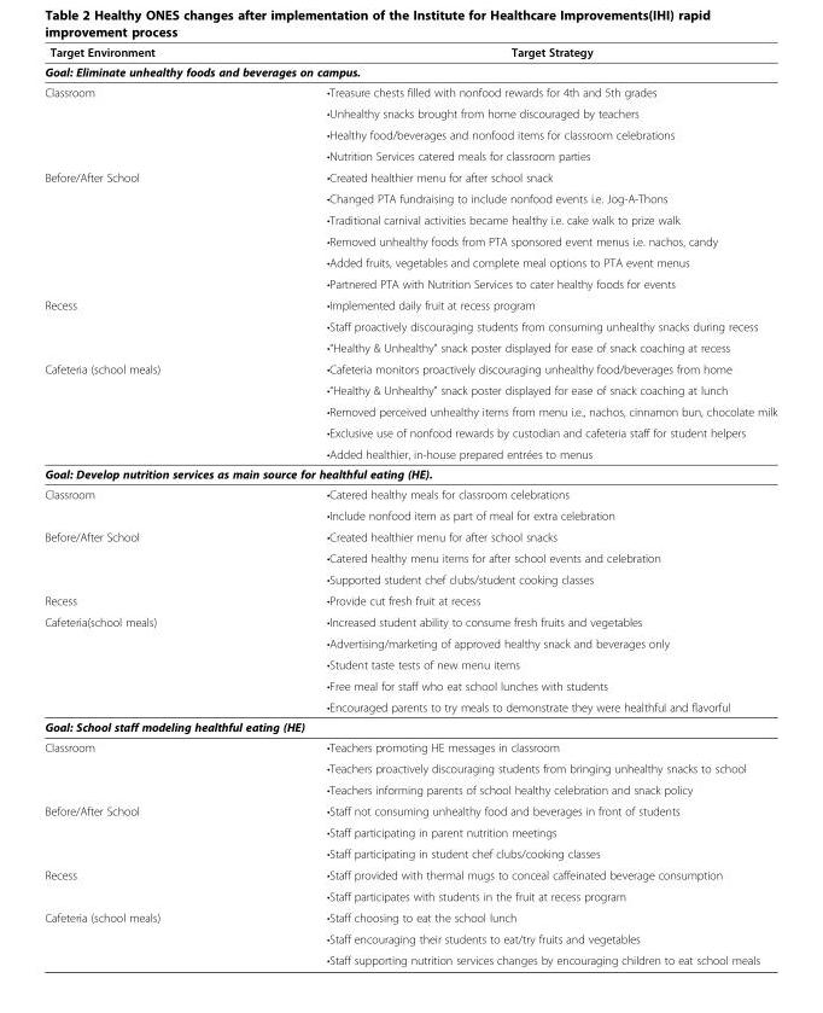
<table><thead><tr><td>Target Environment</td><td>Target Strategy</td></tr></thead><tbody><tr><td colspan="2">Goal: Eliminate unhealthy foods and beverages on campus.</td></tr><tr><td rowspan="4">Classroom</td><td>•Treasure chests filled with nonfood rewards for 4th and 5th grades</td></tr><tr><td>•Unhealthy snacks brought from home discouraged by teachers</td></tr><tr><td>•Healthy food/beverages and nonfood items for classroom celebrations</td></tr><tr><td>•Nutrition Services catered meals for classroom parties</td></tr><tr><td rowspan="6">Before/After School</td><td>•Created healthier menu for after school snack</td></tr><tr><td>•Changed PTA fundraising to include nonfood events i.e. Jog-A-Thons</td></tr><tr><td>•Traditional carnival activities became healthy i.e. cake walk to prize walk</td></tr><tr><td>•Removed unhealthy foods from PTA sponsored event menus i.e. nachos, candy</td></tr><tr><td>•Added fruits, vegetables and complete meal options to PTA event menus</td></tr><tr><td>•Partnered PTA with Nutrition Services to cater healthy foods for events</td></tr><tr><td rowspan="3">Recess</td><td>•Implemented daily fruit at recess program</td></tr><tr><td>•Staff proactively discouraging students from consuming unhealthy snacks during recess</td></tr><tr><td>•“Healthy &amp; Unhealthy” snack poster displayed for ease of snack coaching at recess</td></tr><tr><td rowspan="5">Cafeteria (school meals)</td><td>•Cafeteria monitors proactively discouraging unhealthy food/beverages from home</td></tr><tr><td>•“Healthy &amp; Unhealthy” snack poster displayed for ease of snack coaching at lunch</td></tr><tr><td>•Removed perceived unhealthy items from menu i.e., nachos, cinnamon bun, chocolate milk</td></tr><tr><td>•Exclusive use of nonfood rewards by custodian and cafeteria staff for student helpers</td></tr><tr><td>•Added healthier, in-house prepared entrées to menus</td></tr><tr><td colspan="2">Goal: Develop nutrition services as main source for healthful eating (HE).</td></tr><tr><td rowspan="2">Classroom</td><td>•Catered healthy meals for classroom celebrations</td></tr><tr><td>•Include nonfood item as part of meal for extra celebration</td></tr><tr><td rowspan="3">Before/After School</td><td>•Created healthier menu for after school snacks</td></tr><tr><td>•Catered healthy menu items for after school events and celebration</td></tr><tr><td>•Supported student chef clubs/student cooking classes</td></tr><tr><td>Recess</td><td>•Provide cut fresh fruit at recess</td></tr><tr><td rowspan="5">Cafeteria(school meals)</td><td>•Increased student ability to consume fresh fruits and vegetables</td></tr><tr><td>•Advertising/marketing of approved healthy snack and beverages only</td></tr><tr><td>•Student taste tests of new menu items</td></tr><tr><td>•Free meal for staff who eat school lunches with students</td></tr><tr><td>•Encouraged parents to try meals to demonstrate they were healthful and flavorful</td></tr><tr><td colspan="2">Goal: School staff modeling healthful eating (HE)</td></tr><tr><td rowspan="3">Classroom</td><td>•Teachers promoting HE messages in classroom</td></tr><tr><td>•Teachers proactively discouraging students from bringing unhealthy snacks to school</td></tr><tr><td>•Teachers informing parents of school healthy celebration and snack policy</td></tr><tr><td rowspan="3">Before/After School</td><td>•Staff not consuming unhealthy food and beverages in front of students</td></tr><tr><td>•Staff participating in parent nutrition meetings</td></tr><tr><td>•Staff participating in student chef clubs/cooking classes</td></tr><tr><td rowspan="2">Recess</td><td>•Staff provided with thermal mugs to conceal caffeinated beverage consumption</td></tr><tr><td>•Staff participates with students in the fruit at recess program</td></tr><tr><td rowspan="3">Cafeteria (school meals)</td><td>•Staff choosing to eat the school lunch</td></tr><tr><td>•Staff encouraging their students to eat/try fruits and vegetables</td></tr><tr><td>•Staff supporting nutrition services changes by encouraging children to eat school meals</td></tr></tbody></table>